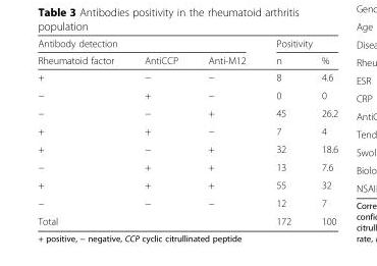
<table><thead><tr><td colspan="3">Antibody detection</td><td colspan="2">Positivity</td></tr><tr><td>Rheumatoid factor</td><td>AntiCCP</td><td>Anti-M12</td><td>n</td><td>%</td></tr></thead><tbody><tr><td>+</td><td>−</td><td>−</td><td>8</td><td>4.6</td></tr><tr><td>−</td><td>+</td><td>−</td><td>0</td><td>0</td></tr><tr><td>−</td><td>−</td><td>+</td><td>45</td><td>26.2</td></tr><tr><td>+</td><td>+</td><td>−</td><td>7</td><td>4</td></tr><tr><td>+</td><td>−</td><td>+</td><td>32</td><td>18.6</td></tr><tr><td>−</td><td>+</td><td>+</td><td>13</td><td>7.6</td></tr><tr><td>+</td><td>+</td><td>+</td><td>55</td><td>32</td></tr><tr><td>−</td><td>−</td><td>−</td><td>12</td><td>7</td></tr><tr><td>Total</td><td></td><td></td><td>172</td><td>100</td></tr></tbody></table>